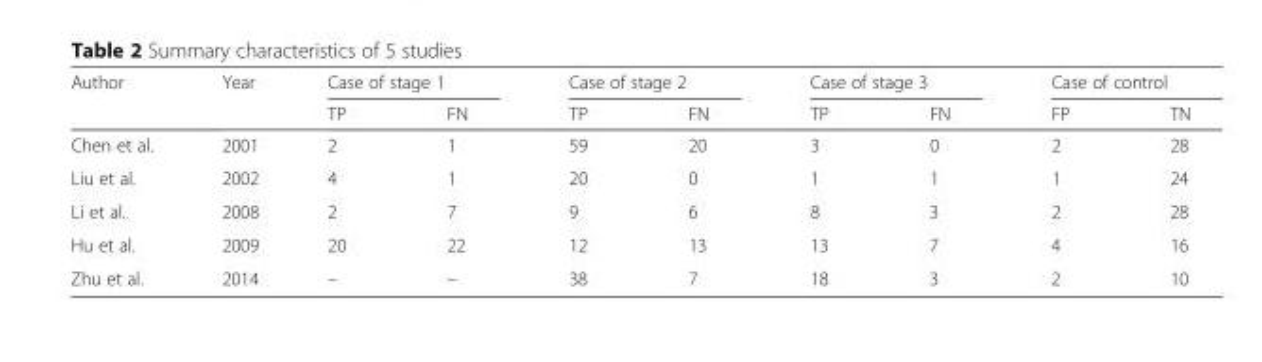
<table><thead><tr><td rowspan="2">Author</td><td rowspan="2">Year</td><td colspan="2">Case of stage 1</td><td colspan="2">Case of stage 2</td><td colspan="2">Case of stage 3</td><td colspan="2">Case of control</td></tr><tr><td>TP</td><td>FN</td><td>TP</td><td>FN</td><td>TP</td><td>FN</td><td>FP</td><td>TN</td></tr></thead><tbody><tr><td>Chen et al.</td><td>2001</td><td>2</td><td>1</td><td>59</td><td>20</td><td>3</td><td>0</td><td>2</td><td>28</td></tr><tr><td>Liu et al.</td><td>2002</td><td>4</td><td>1</td><td>20</td><td>0</td><td>1</td><td>1</td><td>1</td><td>24</td></tr><tr><td>Li et al.</td><td>2008</td><td>2</td><td>7</td><td>9</td><td>6</td><td>8</td><td>3</td><td>2</td><td>28</td></tr><tr><td>Hu et al.</td><td>2009</td><td>20</td><td>22</td><td>12</td><td>13</td><td>13</td><td>7</td><td>4</td><td>16</td></tr><tr><td>Zhu et al.</td><td>2014</td><td>–</td><td>–</td><td>38</td><td>7</td><td>18</td><td>3</td><td>2</td><td>10</td></tr></tbody></table>